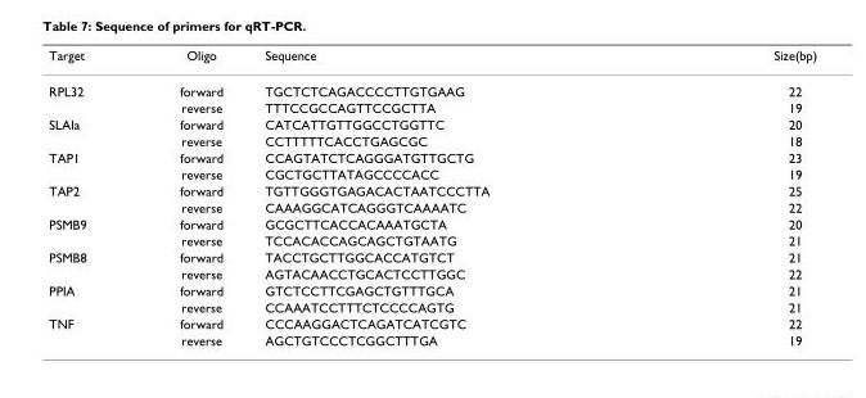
<table><thead><tr><td>Target</td><td>Oligo</td><td>Sequence</td><td>Size(bp)</td></tr></thead><tbody><tr><td rowspan="2">RPL32</td><td>forward</td><td>TGCTCTCAGACCCCTTGTGAAG</td><td>22</td></tr><tr><td>reverse</td><td>TTTCCGCCAGTTCCGCTTA</td><td>19</td></tr><tr><td rowspan="2">SLAIa</td><td>forward</td><td>CATCATTGTTGGCCTGGTTC</td><td>20</td></tr><tr><td>reverse</td><td>CCTTTTTCACCTGAGCGC</td><td>18</td></tr><tr><td rowspan="2">TAP1</td><td>forward</td><td>CCAGTATCTCAGGGATGTTGCTG</td><td>23</td></tr><tr><td>reverse</td><td>CGCTGCTTATAGCCCCACC</td><td>19</td></tr><tr><td rowspan="2">TAP2</td><td>forward</td><td>TGTTGGGTGAGACACTAATCCCTTA</td><td>25</td></tr><tr><td>reverse</td><td>CAAAGGCATCAGGGTCAAAATC</td><td>22</td></tr><tr><td rowspan="2">PSMB9</td><td>forward</td><td>GCGCTTCACCACAAATGCTA</td><td>20</td></tr><tr><td>reverse</td><td>TCCACACCAGCAGCTGTAATG</td><td>21</td></tr><tr><td rowspan="2">PSMB8</td><td>forward</td><td>TACCTGCTTGGCACCATGTCT</td><td>21</td></tr><tr><td>reverse</td><td>AGTACAACCTGCACTCCTTGGC</td><td>22</td></tr><tr><td rowspan="2">PPIA</td><td>forward</td><td>GTCTCCTTCGAGCTGTTTGCA</td><td>21</td></tr><tr><td>reverse</td><td>CCAAATCCTTTCTCCCCAGTG</td><td>21</td></tr><tr><td rowspan="2">TNF</td><td>forward</td><td>CCCAAGGACTCAGATCATCGTC</td><td>22</td></tr><tr><td>reverse</td><td>AGCTGTCCCTCGGCTTTGA</td><td>19</td></tr></tbody></table>